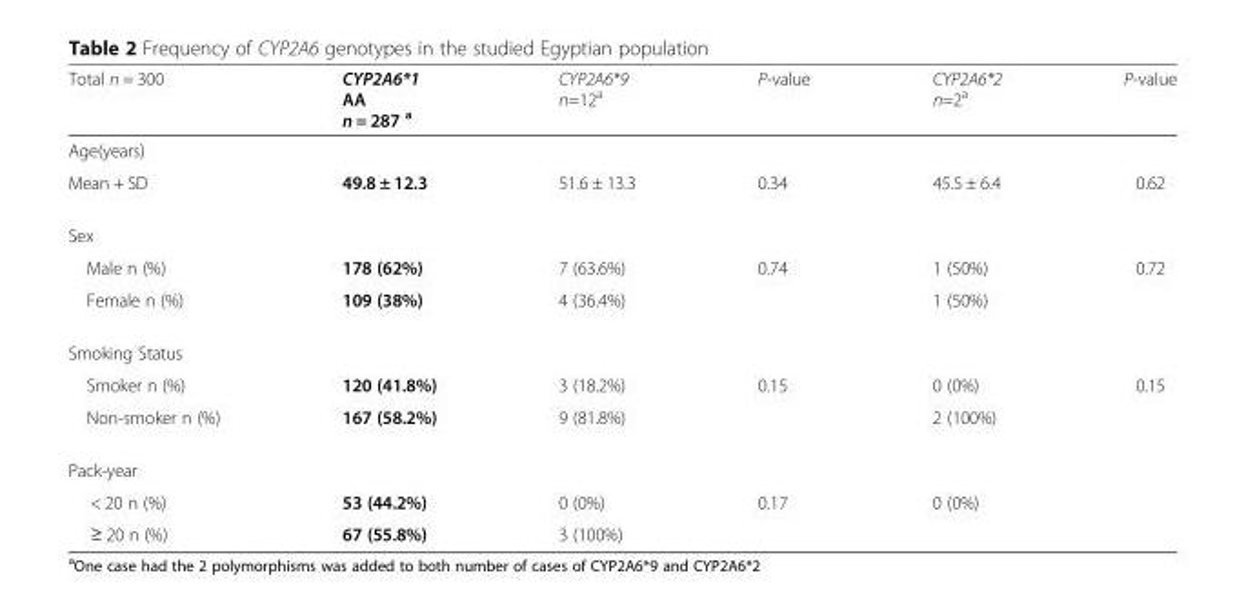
<table><thead><tr><td>Total n = 300</td><td>CYP2A6*1 AA n = 287 <sup>a</sup></td><td>CYP2A6*9 n=12<sup>a</sup></td><td>P-value</td><td>CYP2A6*2 n=2<sup>a</sup></td><td>P-value</td></tr></thead><tbody><tr><td colspan="6">Age(years)</td></tr><tr><td>Mean + SD</td><td>49.8 ± 12.3</td><td>51.6 ± 13.3</td><td>0.34</td><td>45.5 ± 6.4</td><td>0.62</td></tr><tr><td colspan="6">Sex</td></tr><tr><td>Male n (%)</td><td>178 (62%)</td><td>7 (63.6%)</td><td rowspan="2">0.74</td><td>1 (50%)</td><td rowspan="2">0.72</td></tr><tr><td>Female n (%)</td><td>109 (38%)</td><td>4 (36.4%)</td><td>1 (50%)</td></tr><tr><td colspan="6">Smoking Status</td></tr><tr><td>Smoker n (%)</td><td>120 (41.8%)</td><td>3 (18.2%)</td><td rowspan="2">0.15</td><td>0 (0%)</td><td rowspan="2">0.15</td></tr><tr><td>Non-smoker n (%)</td><td>167 (58.2%)</td><td>9 (81.8%)</td><td>2 (100%)</td></tr><tr><td colspan="6">Pack-year</td></tr><tr><td>&lt; 20 n (%)</td><td>53 (44.2%)</td><td>0 (0%)</td><td rowspan="2">0.17</td><td>0 (0%)</td><td></td></tr><tr><td>≥ 20 n (%)</td><td>67 (55.8%)</td><td>3 (100%)</td><td></td><td></td></tr></tbody></table>